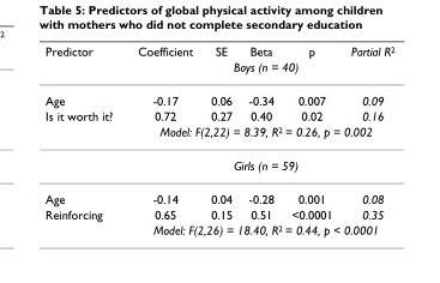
<table><thead><tr><td rowspan="2">Predictor</td><td>Coefficient</td><td>SE</td><td>Beta</td><td>p</td><td>Partial R<sup>2</sup></td></tr><tr><td colspan="5">Boys (n = 40)</td></tr></thead><tbody><tr><td>Age</td><td>-0.17</td><td>0.06</td><td>-0.34</td><td>0.007</td><td>0.09</td></tr><tr><td rowspan="3">Is it worth it?</td><td>0.72</td><td>0.27</td><td>0.40</td><td>0.02</td><td>0.16</td></tr><tr><td colspan="5">Model: F(2,22) = 8.39, R<sup>2</sup> = 0.26, p = 0.002</td></tr><tr><td colspan="5">Girls (n = 59)</td></tr><tr><td>Age</td><td>-0.14</td><td>0.04</td><td>-0.28</td><td>0.001</td><td>0.08</td></tr><tr><td rowspan="2">Reinforcing</td><td>0.65</td><td>0.15</td><td>0.51</td><td>&lt;0.0001</td><td>0.35</td></tr><tr><td colspan="5">Model: F(2,26) = 18.40, R<sup>2</sup> = 0.44, p &lt; 0.0001</td></tr></tbody></table>